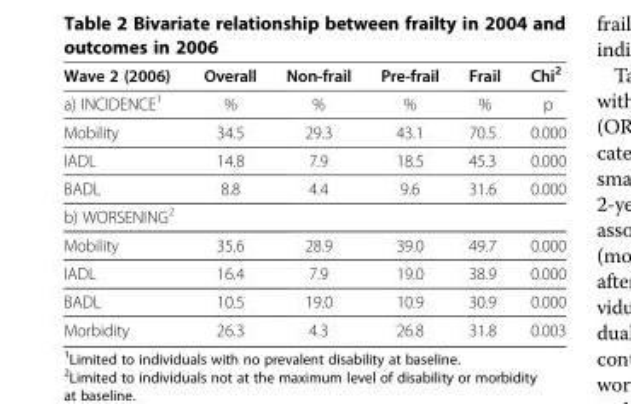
<table><thead><tr><td>Wave 2 (2006)</td><td>Overall</td><td>Non-frail</td><td>Pre-frail</td><td>Frail</td><td>Chi<sup>2</sup></td></tr></thead><tbody><tr><td>a) INCIDENCE<sup>1</sup></td><td>%</td><td>%</td><td>%</td><td>%</td><td>p</td></tr><tr><td>Mobility</td><td>34.5</td><td>29.3</td><td>43.1</td><td>70.5</td><td>0.000</td></tr><tr><td>IADL</td><td>14.8</td><td>7.9</td><td>18.5</td><td>45.3</td><td>0.000</td></tr><tr><td>BADL</td><td>8.8</td><td>4.4</td><td>9.6</td><td>31.6</td><td>0.000</td></tr><tr><td colspan="6">b) WORSENING<sup>2</sup></td></tr><tr><td>Mobility</td><td>35.6</td><td>28.9</td><td>39.0</td><td>49.7</td><td>0.000</td></tr><tr><td>IADL</td><td>16.4</td><td>7.9</td><td>19.0</td><td>38.9</td><td>0.000</td></tr><tr><td>BADL</td><td>10.5</td><td>19.0</td><td>10.9</td><td>30.9</td><td>0.000</td></tr><tr><td>Morbidity</td><td>26.3</td><td>4.3</td><td>26.8</td><td>31.8</td><td>0.003</td></tr></tbody></table>